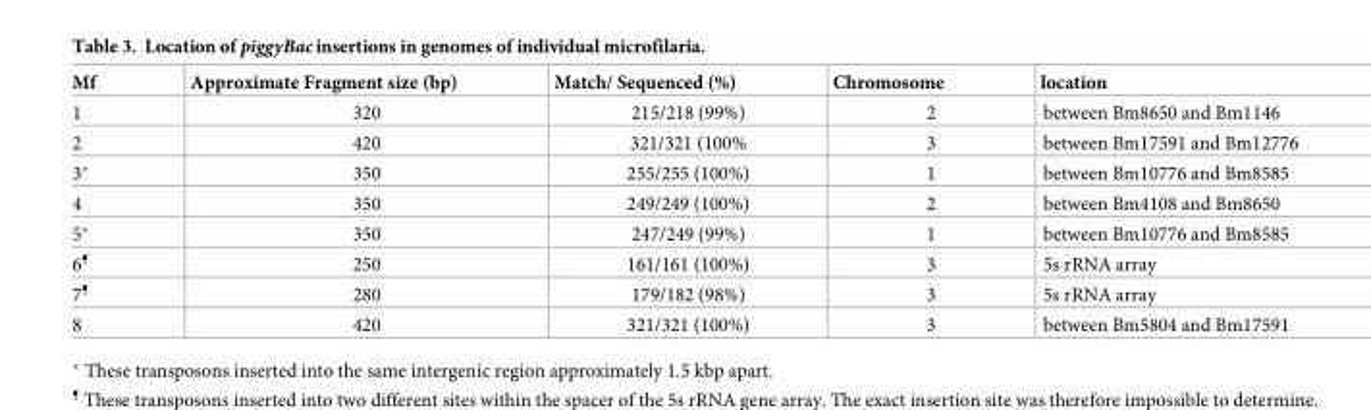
<table><thead><tr><td>Mf</td><td>Approximate Fragment size (bp)</td><td>Match/ Sequenced (%)</td><td>Chromosome</td><td>location</td></tr></thead><tbody><tr><td>1</td><td>320</td><td>215/218 (99%)</td><td>2</td><td>between Bm8650 and Bm1146</td></tr><tr><td>2</td><td>420</td><td>321/321 (100%</td><td>3</td><td>between Bm17591 and Bm12776</td></tr><tr><td>3*</td><td>350</td><td>255/255 (100%)</td><td>1</td><td>between Bm10776 and Bm8585</td></tr><tr><td>4</td><td>350</td><td>249/249 (100%)</td><td>2</td><td>between Bm4108 and Bm8650</td></tr><tr><td>5*</td><td>350</td><td>247/249 (99%)</td><td>1</td><td>between Bm10776 and Bm8585</td></tr><tr><td>6<sup>¶</sup></td><td>250</td><td>161/161 (100%)</td><td>3</td><td>5s rRNA array</td></tr><tr><td>7<sup>¶</sup></td><td>280</td><td>179/182 (98%)</td><td>3</td><td>5s rRNA array</td></tr><tr><td>8</td><td>420</td><td>321/321 (100%)</td><td>3</td><td>between Bm5804 and Bm17591</td></tr></tbody></table>